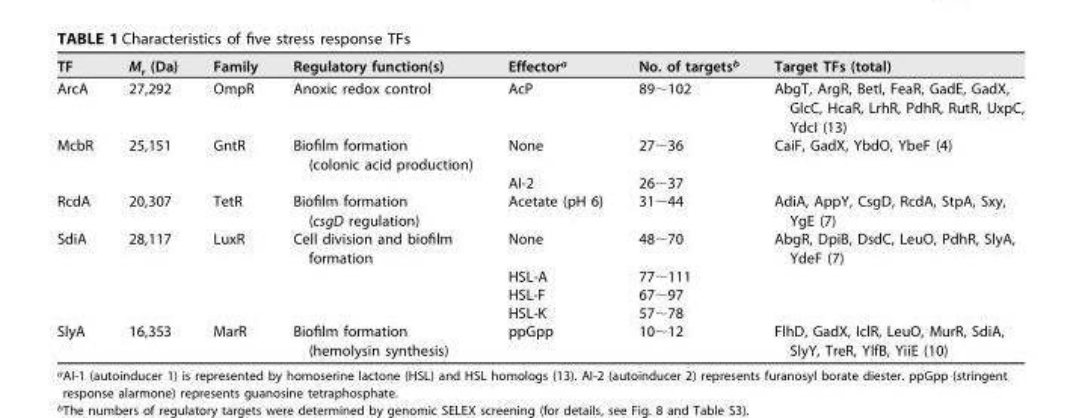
<table><thead><tr><td>TF</td><td>M<sub>r</sub> (Da)</td><td>Family</td><td>Regulatory function(s)</td><td>Effector<sup>a</sup></td><td>No. of targets<sup>b</sup></td><td>Target TFs (total)</td></tr></thead><tbody><tr><td>ArcA</td><td>27,292</td><td>OmpR</td><td>Anoxic redox control</td><td>AcP</td><td>89∼102</td><td>AbgT, ArgR, BetI, FeaR, GadE, GadX, GlcC, HcaR, LrhR, PdhR, RutR, UxpC, YdcI (13)</td></tr><tr><td rowspan="2">McbR</td><td>25,151</td><td>GntR</td><td>Biofilm formation (colonic acid production)</td><td>None</td><td>27∼36</td><td>CaiF, GadX, YbdO, YbeF (4)</td></tr><tr><td></td><td></td><td></td><td>AI-2</td><td>26∼37</td><td></td></tr><tr><td>RcdA</td><td>20,307</td><td>TetR</td><td>Biofilm formation (csgD regulation)</td><td>Acetate (pH 6)</td><td>31∼44</td><td>AdiA, AppY, CsgD, RcdA, StpA, Sxy, YgE (7)</td></tr><tr><td rowspan="4">SdiA</td><td>28,117</td><td>LuxR</td><td>Cell division and biofilm formation</td><td>None</td><td>48∼70</td><td>AbgR, DpiB, DsdC, LeuO, PdhR, SlyA, YdeF (7)</td></tr><tr><td></td><td></td><td></td><td>HSL-A</td><td>77∼111</td><td></td></tr><tr><td></td><td></td><td></td><td>HSL-F</td><td>67∼97</td><td></td></tr><tr><td></td><td></td><td></td><td>HSL-K</td><td>57∼78</td><td></td></tr><tr><td>SlyA</td><td>16,353</td><td>MarR</td><td>Biofilm formation (hemolysin synthesis)</td><td>ppGpp</td><td>10∼12</td><td>FlhD, GadX, IclR, LeuO, MurR, SdiA, SlyY, TreR, YlfB, YiiE (10)</td></tr></tbody></table>